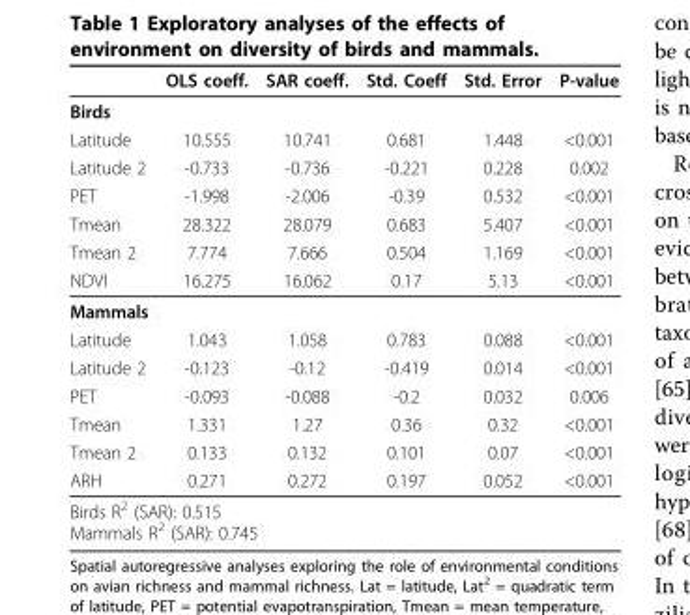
<table><thead><tr><td></td><td>OLS coeff.</td><td>SAR coeff.</td><td>Std. Coeff</td><td>Std. Error</td><td>P-value</td></tr></thead><tbody><tr><td colspan="6">Birds</td></tr><tr><td>Latitude</td><td>10.555</td><td>10.741</td><td>0.681</td><td>1.448</td><td>&lt;0.001</td></tr><tr><td>Latitude 2</td><td>-0.733</td><td>-0.736</td><td>-0.221</td><td>0.228</td><td>0.002</td></tr><tr><td>PET</td><td>-1.998</td><td>-2.006</td><td>-0.39</td><td>0.532</td><td>&lt;0.001</td></tr><tr><td>Tmean</td><td>28.322</td><td>28.079</td><td>0.683</td><td>5.407</td><td>&lt;0.001</td></tr><tr><td>Tmean 2</td><td>7.774</td><td>7.666</td><td>0.504</td><td>1.169</td><td>&lt;0.001</td></tr><tr><td>NDVI</td><td>16.275</td><td>16.062</td><td>0.17</td><td>5.13</td><td>&lt;0.001</td></tr><tr><td colspan="6">Mammals</td></tr><tr><td>Latitude</td><td>1.043</td><td>1.058</td><td>0.783</td><td>0.088</td><td>&lt;0.001</td></tr><tr><td>Latitude 2</td><td>-0.123</td><td>-0.12</td><td>-0.419</td><td>0.014</td><td>&lt;0.001</td></tr><tr><td>PET</td><td>-0.093</td><td>-0.088</td><td>-0.2</td><td>0.032</td><td>0.006</td></tr><tr><td>Tmean</td><td>1.331</td><td>1.27</td><td>0.36</td><td>0.32</td><td>&lt;0.001</td></tr><tr><td>Tmean 2</td><td>0.133</td><td>0.132</td><td>0.101</td><td>0.07</td><td>&lt;0.001</td></tr><tr><td>ARH</td><td>0.271</td><td>0.272</td><td>0.197</td><td>0.052</td><td>&lt;0.001</td></tr><tr><td colspan="6">Birds R<sup>2</sup> (SAR): 0.515 Mammals R<sup>2</sup> (SAR): 0.745</td></tr></tbody></table>